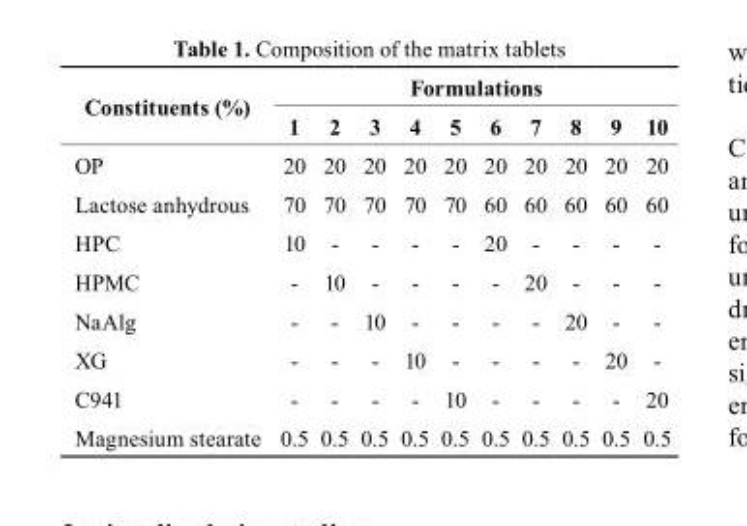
<table><thead><tr><td rowspan="2">constituents (%)</td><td colspan="10">Formulations</td></tr><tr><td>1</td><td>2</td><td>3</td><td>4</td><td>5</td><td>6</td><td>7</td><td>8</td><td>9</td><td>10</td></tr></thead><tbody><tr><td>OP</td><td>20</td><td>20</td><td>20</td><td>20</td><td>20</td><td>20</td><td>20</td><td>20</td><td>20</td><td>20</td></tr><tr><td>Lactose anhydrous</td><td>70</td><td>70</td><td>70</td><td>70</td><td>70</td><td>60</td><td>60</td><td>60</td><td>60</td><td>60</td></tr><tr><td>HPC</td><td>10</td><td>-</td><td>-</td><td>-</td><td>-</td><td>20</td><td>-</td><td>-</td><td>-</td><td>-</td></tr><tr><td>HPMC</td><td>-</td><td>10</td><td>-</td><td>-</td><td>-</td><td>-</td><td>20</td><td>-</td><td>-</td><td>-</td></tr><tr><td>NaAlg</td><td>-</td><td>-</td><td>10</td><td>-</td><td>-</td><td>-</td><td>-</td><td>20</td><td>-</td><td>-</td></tr><tr><td>XG</td><td>-</td><td>-</td><td>-</td><td>10</td><td>-</td><td>-</td><td>-</td><td>-</td><td>20</td><td>-</td></tr><tr><td>C941</td><td>-</td><td>-</td><td>-</td><td>-</td><td>10</td><td>-</td><td>-</td><td>-</td><td>-</td><td>20</td></tr><tr><td>Magnesium stearate</td><td>0.5</td><td>0.5</td><td>0.5</td><td>0.5</td><td>0.5</td><td>0.5</td><td>0.5</td><td>0.5</td><td>0.5</td><td>0.5</td></tr></tbody></table>